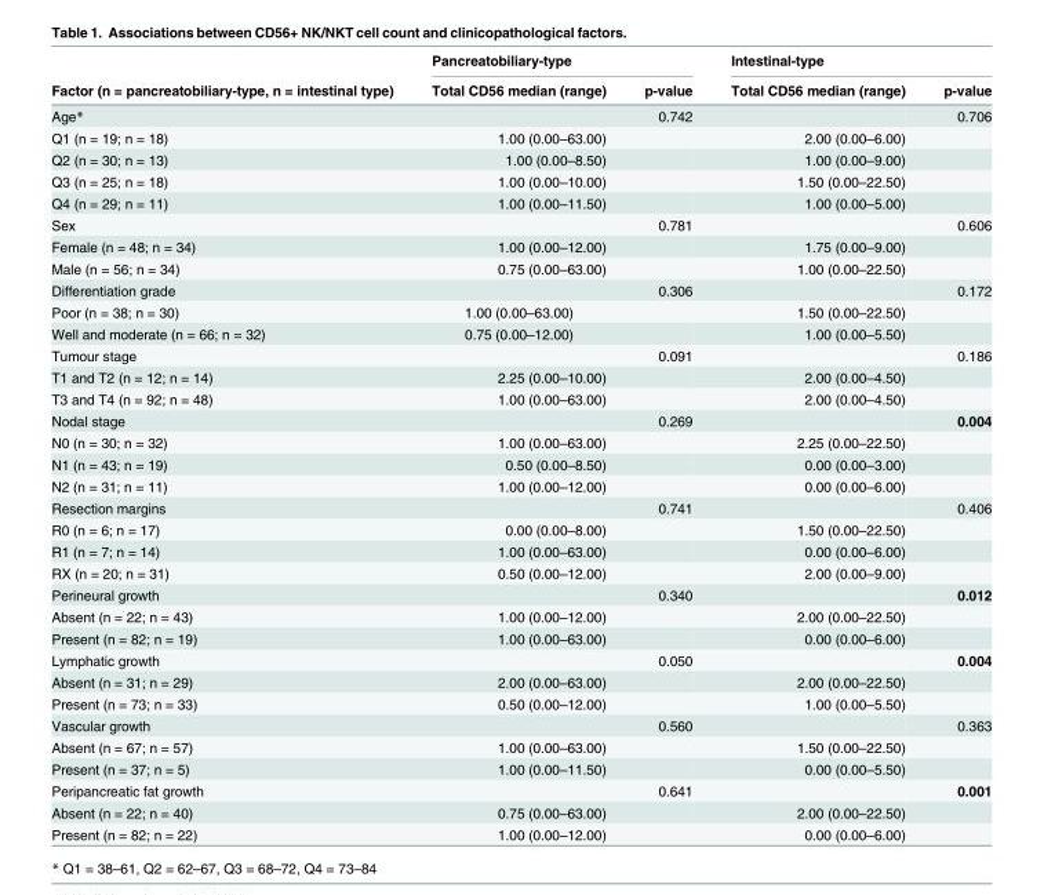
<table><thead><tr><td rowspan="2">Factor (n = pancreatobiliary-type, n = intestinal type)</td><td colspan="2">Pancreatobiliary-type</td><td colspan="2">Intestinal-type</td></tr><tr><td>Total CD56 median (range)</td><td>p-value</td><td>Total CD56 median (range)</td><td>p-value</td></tr></thead><tbody><tr><td>Age*</td><td></td><td>0.742</td><td></td><td>0.706</td></tr><tr><td>Q1 (n = 19; n = 18)</td><td>1.00 (0.00–63.00)</td><td></td><td>2.00 (0.00–6.00)</td><td></td></tr><tr><td>Q2 (n = 30; n = 13)</td><td>1.00 (0.00–8.50)</td><td></td><td>1.00 (0.00–9.00)</td><td></td></tr><tr><td>Q3 (n = 25; n = 18)</td><td>1.00 (0.00–10.00)</td><td></td><td>1.50 (0.00–22.50)</td><td></td></tr><tr><td>Q4 (n = 29; n = 11)</td><td>1.00 (0.00–11.50)</td><td></td><td>1.00 (0.00–5.00)</td><td></td></tr><tr><td>Sex</td><td></td><td>0.781</td><td></td><td>0.606</td></tr><tr><td>Female (n = 48; n = 34)</td><td>1.00 (0.00–12.00)</td><td></td><td>1.75 (0.00–9.00)</td><td></td></tr><tr><td>Male (n = 56; n = 34)</td><td>0.75 (0.00–63.00)</td><td></td><td>1.00 (0.00–22.50)</td><td></td></tr><tr><td>Differentiation grade</td><td></td><td>0.306</td><td></td><td>0.172</td></tr><tr><td>Poor (n = 38; n = 30)</td><td>1.00 (0.00–63.00)</td><td></td><td>1.50 (0.00–22.50)</td><td></td></tr><tr><td>Well and moderate (n = 66; n = 32)</td><td>0.75 (0.00–12.00)</td><td></td><td>1.00 (0.00–5.50)</td><td></td></tr><tr><td>Tumour stage</td><td></td><td>0.091</td><td></td><td>0.186</td></tr><tr><td>T1 and T2 (n = 12; n = 14)</td><td>2.25 (0.00–10.00)</td><td></td><td>2.00 (0.00–4.50)</td><td></td></tr><tr><td>T3 and T4 (n = 92; n = 48)</td><td>1.00 (0.00–63.00)</td><td></td><td>2.00 (0.00–4.50)</td><td></td></tr><tr><td>Nodal stage</td><td></td><td>0.269</td><td></td><td>0.004</td></tr><tr><td>N0 (n = 30; n = 32)</td><td>1.00 (0.00–63.00)</td><td></td><td>2.25 (0.00–22.50)</td><td></td></tr><tr><td>N1 (n = 43; n = 19)</td><td>0.50 (0.00–8.50)</td><td></td><td>0.00 (0.00–3.00)</td><td></td></tr><tr><td>N2 (n = 31; n = 11)</td><td>1.00 (0.00–12.00)</td><td></td><td>0.00 (0.00–6.00)</td><td></td></tr><tr><td>Resection margins</td><td></td><td>0.741</td><td></td><td>0.406</td></tr><tr><td>R0 (n = 6; n = 17)</td><td>0.00 (0.00–8.00)</td><td></td><td>1.50 (0.00–22.50)</td><td></td></tr><tr><td>R1 (n = 7; n = 14)</td><td>1.00 (0.00–63.00)</td><td></td><td>0.00 (0.00–6.00)</td><td></td></tr><tr><td>RX (n = 20; n = 31)</td><td>0.50 (0.00–12.00)</td><td></td><td>2.00 (0.00–9.00)</td><td></td></tr><tr><td>Perineural growth</td><td></td><td>0.340</td><td></td><td>0.012</td></tr><tr><td>Absent (n = 22; n = 43)</td><td>1.00 (0.00–12.00)</td><td></td><td>2.00 (0.00–22.50)</td><td></td></tr><tr><td>Present (n = 82; n = 19)</td><td>1.00 (0.00–63.00)</td><td></td><td>0.00 (0.00–6.00)</td><td></td></tr><tr><td>Lymphatic growth</td><td></td><td>0.050</td><td></td><td>0.004</td></tr><tr><td>Absent (n = 31; n = 29)</td><td>2.00 (0.00–63.00)</td><td></td><td>2.00 (0.00–22.50)</td><td></td></tr><tr><td>Present (n = 73; n = 33)</td><td>0.50 (0.00–12.00)</td><td></td><td>1.00 (0.00–5.50)</td><td></td></tr><tr><td>Vascular growth</td><td></td><td>0.560</td><td></td><td>0.363</td></tr><tr><td>Absent (n = 67; n = 57)</td><td>1.00 (0.00–63.00)</td><td></td><td>1.50 (0.00–22.50)</td><td></td></tr><tr><td>Present (n = 37; n = 5)</td><td>1.00 (0.00–11.50)</td><td></td><td>0.00 (0.00–5.50)</td><td></td></tr><tr><td>Peripancreatic fat growth</td><td></td><td>0.641</td><td></td><td>0.001</td></tr><tr><td>Absent (n = 22; n = 40)</td><td>0.75 (0.00–63.00)</td><td></td><td>2.00 (0.00–22.50)</td><td></td></tr><tr><td>Present (n = 82; n = 22)</td><td>1.00 (0.00–12.00)</td><td></td><td>0.00 (0.00–6.00)</td><td></td></tr></tbody></table>